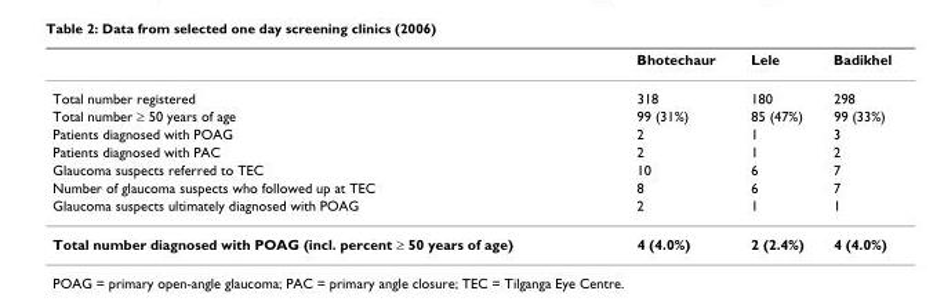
<table><thead><tr><td></td><td>Bhotechaur</td><td>Lele</td><td>Badikhel</td></tr></thead><tbody><tr><td>Total number registered</td><td>318</td><td>180</td><td>298</td></tr><tr><td>Total number ≥ 50 years of age</td><td>99 (31%)</td><td>85 (47%)</td><td>99 (33%)</td></tr><tr><td>Patients diagnosed with POAG</td><td>2</td><td>1</td><td>3</td></tr><tr><td>Patients diagnosed with PAC</td><td>2</td><td>1</td><td>2</td></tr><tr><td>Glaucoma suspects referred to TEC</td><td>10</td><td>6</td><td>7</td></tr><tr><td>Number of glaucoma suspects who followed up at TEC</td><td>8</td><td>6</td><td>7</td></tr><tr><td>Glaucoma suspects ultimately diagnosed with POAG</td><td>2</td><td>1</td><td>1</td></tr><tr><td>Total number diagnosed with POAG (incl. percent ≥ 50 years of age)</td><td>4 (4.0%)</td><td>2 (2.4%)</td><td>4 (4.0%)</td></tr></tbody></table>